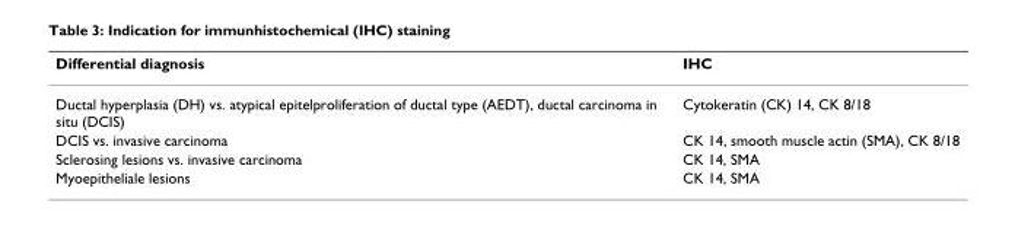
<table><thead><tr><td>Differential diagnosis</td><td>IHC</td></tr></thead><tbody><tr><td>Ductal hyperplasia (DH) vs. atypical epitelproliferation of ductal type (AEDT), ductal carcinoma in situ (DCIS)</td><td>Cytokeratin (CK) 14, CK 8/18</td></tr><tr><td>DCIS vs. invasive carcinoma</td><td>CK 14, smooth muscle actin (SMA), CK 8/18</td></tr><tr><td>Sclerosing lesions vs. invasive carcinoma</td><td>CK 14, SMA</td></tr><tr><td>Myoepitheliale lesions</td><td>CK 14, SMA</td></tr></tbody></table>